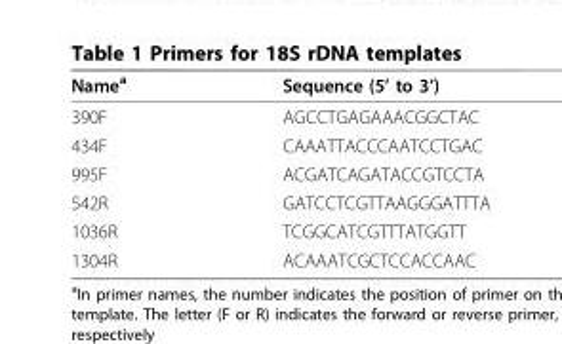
<table><thead><tr><td>Name<sup>a</sup></td><td>Sequence (5’ to 3’)</td></tr></thead><tbody><tr><td>390F</td><td>AGCCTGAGAAACGGCTAC</td></tr><tr><td>434F</td><td>CAAATTACCCAATCCTGAC</td></tr><tr><td>995F</td><td>ACGATCAGATACCGTCCTA</td></tr><tr><td>542R</td><td>GATCCTCGTTAAGGGATTTA</td></tr><tr><td>1036R</td><td>TCGGCATCGTTTATGGTT</td></tr><tr><td>1304R</td><td>ACAAATCGCTCCACCAAC</td></tr></tbody></table>